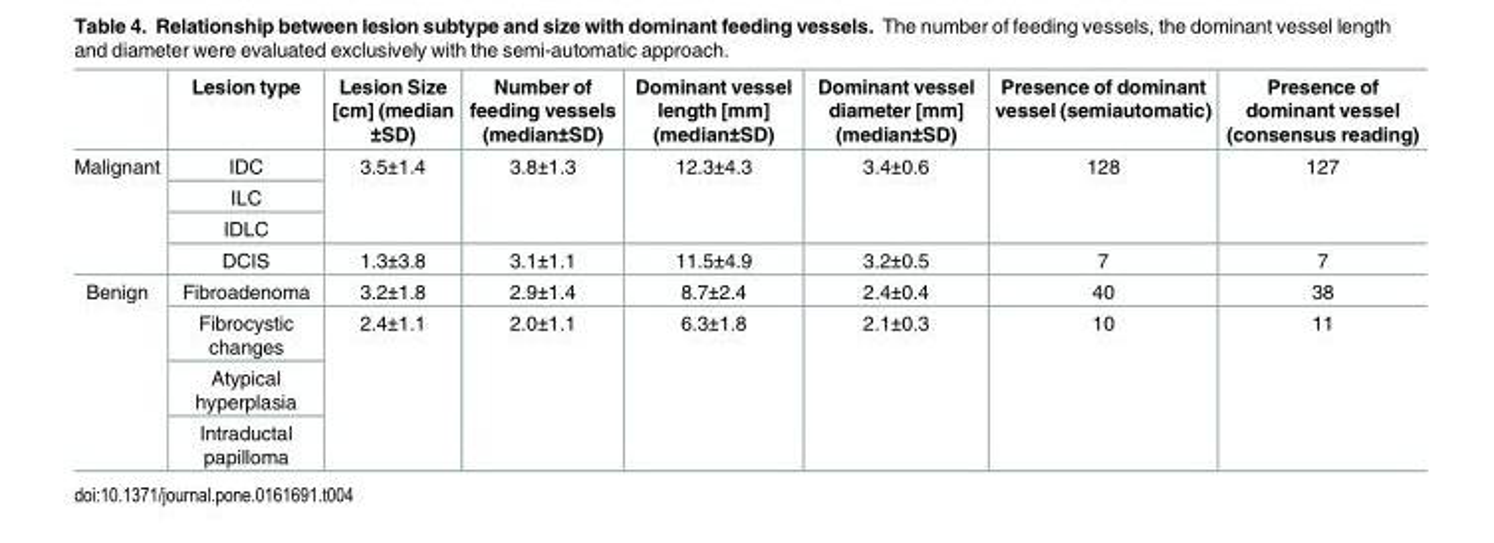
<table><thead><tr><td></td><td>Lesion type</td><td>Lesion Size [cm] (median ±SD)</td><td>Number of feeding vessels (median±SD)</td><td>Dominant vessel length [mm] (median±SD)</td><td>Dominant vessel diameter [mm] (median±SD)</td><td>Presence of dominant vessel (semiautomatic)</td><td>Presence of dominant vessel (consensus reading)</td></tr></thead><tbody><tr><td rowspan="4">Malignant</td><td>IDC</td><td rowspan="3">3.5±1.4</td><td rowspan="3">3.8±1.3</td><td rowspan="3">12.3±4.3</td><td rowspan="3">3.4±0.6</td><td rowspan="3">128</td><td rowspan="3">127</td></tr><tr><td>ILC</td></tr><tr><td>IDLC</td></tr><tr><td>DCIS</td><td>1.3±3.8</td><td>3.1±1.1</td><td>11.5±4.9</td><td>3.2±0.5</td><td>7</td><td>7</td></tr><tr><td rowspan="4">Benign</td><td>Fibroadenoma</td><td>3.2±1.8</td><td>2.9±1.4</td><td>8.7±2.4</td><td>2.4±0.4</td><td>40</td><td>38</td></tr><tr><td>Fibrocystic changes</td><td rowspan="3">2.4±1.1</td><td rowspan="3">2.0±1.1</td><td rowspan="3">6.3±1.8</td><td rowspan="3">2.1±0.3</td><td rowspan="3">10</td><td rowspan="3">11</td></tr><tr><td>Atypical hyperplasia</td></tr><tr><td>Intraductal papilloma</td></tr></tbody></table>